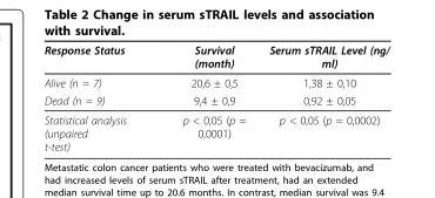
<table><thead><tr><td>Response Status</td><td>Survival (month)</td><td>Serum sTRAIL Level (ng/ ml)</td></tr></thead><tbody><tr><td>Alive (n = 7)</td><td>20,6 ± 0,5</td><td>1,38 ± 0,10</td></tr><tr><td>Dead (n = 9)</td><td>9,4 ± 0,9</td><td>0,92 ± 0,05</td></tr><tr><td>Statistical analysis (unpaired t-test)</td><td>p &lt; 0,05 (p = 0,0001)</td><td>p &lt; 0,05 (p = 0,0002)</td></tr></tbody></table>